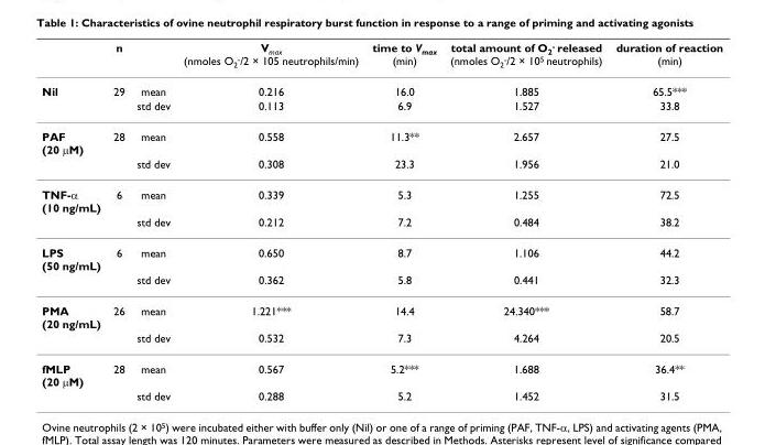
<table><thead><tr><td></td><td>n</td><td></td><td>V<sub>max</sub> (nmoles O<sub>2</sub><sup>-</sup>/2 × 105 neutrophils/min)</td><td>time to V<sub>max</sub> (min)</td><td>total amount of O<sub>2</sub><sup>-</sup> released (nmoles O<sub>2</sub><sup>-</sup>/2 × 10<sup>5</sup> neutrophils)</td><td>duration of reaction (min)</td></tr></thead><tbody><tr><td rowspan="2">Nil</td><td>29</td><td>mean</td><td>0.216</td><td>16.0</td><td>1.885</td><td>65.5***</td></tr><tr><td></td><td>std dev</td><td>0.113</td><td>6.9</td><td>1.527</td><td>33.8</td></tr><tr><td rowspan="2">PAF (20 μM)</td><td>28</td><td>mean</td><td>0.558</td><td>11.3**</td><td>2.657</td><td>27.5</td></tr><tr><td></td><td>std dev</td><td>0.308</td><td>23.3</td><td>1.956</td><td>21.0</td></tr><tr><td rowspan="2">TNF-α (10 ng/mL)</td><td>6</td><td>mean</td><td>0.339</td><td>5.3</td><td>1.255</td><td>72.5</td></tr><tr><td></td><td>std dev</td><td>0.212</td><td>7.2</td><td>0.484</td><td>38.2</td></tr><tr><td rowspan="2">LPS (50 ng/mL)</td><td>6</td><td>mean</td><td>0.650</td><td>8.7</td><td>1.106</td><td>44.2</td></tr><tr><td></td><td>std dev</td><td>0.362</td><td>5.8</td><td>0.441</td><td>32.3</td></tr><tr><td rowspan="2">PMA (20 ng/mL)</td><td>26</td><td>mean</td><td>1.221***</td><td>14.4</td><td>24.340***</td><td>58.7</td></tr><tr><td></td><td>std dev</td><td>0.532</td><td>7.3</td><td>4.264</td><td>20.5</td></tr><tr><td rowspan="2">fMLP (20 μM)</td><td>28</td><td>mean</td><td>0.567</td><td>5.2***</td><td>1.688</td><td>36.4**</td></tr><tr><td></td><td>std dev</td><td>0.288</td><td>5.2</td><td>1.452</td><td>31.5</td></tr></tbody></table>